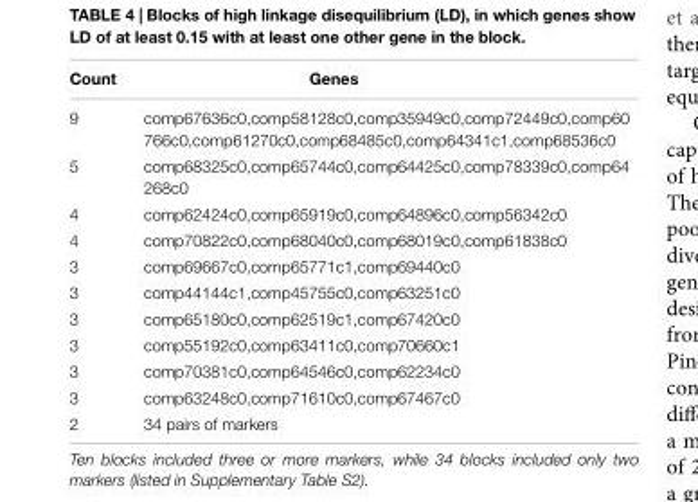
<table><thead><tr><td>Count</td><td>Genes</td></tr></thead><tbody><tr><td>9</td><td>comp67636c0,comp58128c0,comp35949c0,comp72449c0,comp60 766c0,comp61270c0,comp68485c0,comp64341c1,comp68536c0</td></tr><tr><td>5</td><td>comp68325c0,comp65744c0,comp64425c0,comp78339c0,comp64 268c0</td></tr><tr><td>4</td><td>comp62424c0,comp65919c0,comp64896c0,comp56342c0</td></tr><tr><td>4</td><td>comp70822c0,comp68040c0,comp68019c0,comp61838c0</td></tr><tr><td>3</td><td>comp69667c0,comp65771c1,comp69440c0</td></tr><tr><td>3</td><td>comp44144c1,comp45755c0,comp63251c0</td></tr><tr><td>3</td><td>comp65180c0,comp62519c1,comp67420c0</td></tr><tr><td>3</td><td>comp55192c0,comp63411c0,comp70660c1</td></tr><tr><td>3</td><td>comp70381c0,comp64546c0,comp62234c0</td></tr><tr><td>3</td><td>comp63248c0,comp71610c0,comp67467c0</td></tr><tr><td>2</td><td>34 pairs of markers</td></tr></tbody></table>